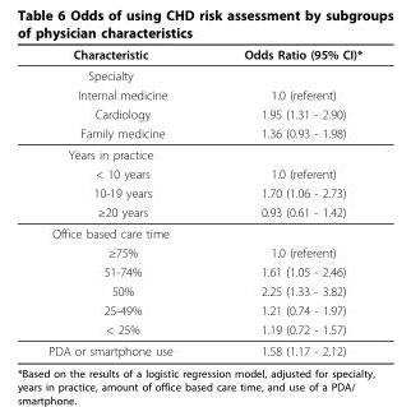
<table><thead><tr><td>Characteristic</td><td>Odds Ratio (95% CI)*</td></tr></thead><tbody><tr><td colspan="2">Specialty</td></tr><tr><td>Internal medicine</td><td>1.0 (referent)</td></tr><tr><td>Cardiology</td><td>1.95 (1.31 - 2.90)</td></tr><tr><td>Family medicine</td><td>1.36 (0.93 - 1.98)</td></tr><tr><td colspan="2">Years in practice</td></tr><tr><td>&lt; 10 years</td><td>1.0 (referent)</td></tr><tr><td>10-19 years</td><td>1.70 (1.06 - 2.73)</td></tr><tr><td>≥20 years</td><td>0.93 (0.61 - 1.42)</td></tr><tr><td colspan="2">Office based care time</td></tr><tr><td>≥75%</td><td>1.0 (referent)</td></tr><tr><td>51-74%</td><td>1.61 (1.05 - 2.46)</td></tr><tr><td>50%</td><td>2.25 (1.33 - 3.82)</td></tr><tr><td>25-49%</td><td>1.21 (0.74 - 1.97)</td></tr><tr><td>&lt; 25%</td><td>1.19 (0.72 - 1.57)</td></tr><tr><td>PDA or smartphone use</td><td>1.58 (1.17 - 2.12)</td></tr></tbody></table>